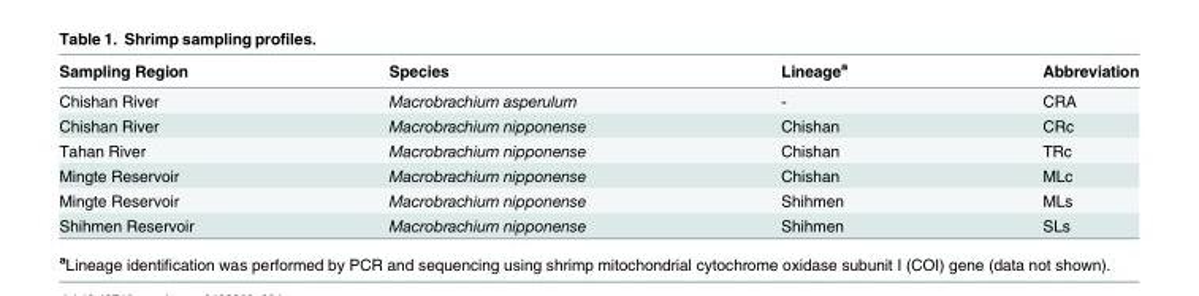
<table><thead><tr><td>Sampling Region</td><td>Species</td><td>Lineage<sup>a</sup></td><td>Abbreviation</td></tr></thead><tbody><tr><td>Chishan River</td><td>Macrobrachium asperulum</td><td>-</td><td>CRA</td></tr><tr><td>Chishan River</td><td>Macrobrachium nipponense</td><td>Chishan</td><td>CRc</td></tr><tr><td>Tahan River</td><td>Macrobrachium nipponense</td><td>Chishan</td><td>TRc</td></tr><tr><td>Mingte Reservoir</td><td>Macrobrachium nipponense</td><td>Chishan</td><td>MLc</td></tr><tr><td>Mingte Reservoir</td><td>Macrobrachium nipponense</td><td>Shihmen</td><td>MLs</td></tr><tr><td>Shihmen Reservoir</td><td>Macrobrachium nipponense</td><td>Shihmen</td><td>SLs</td></tr></tbody></table>